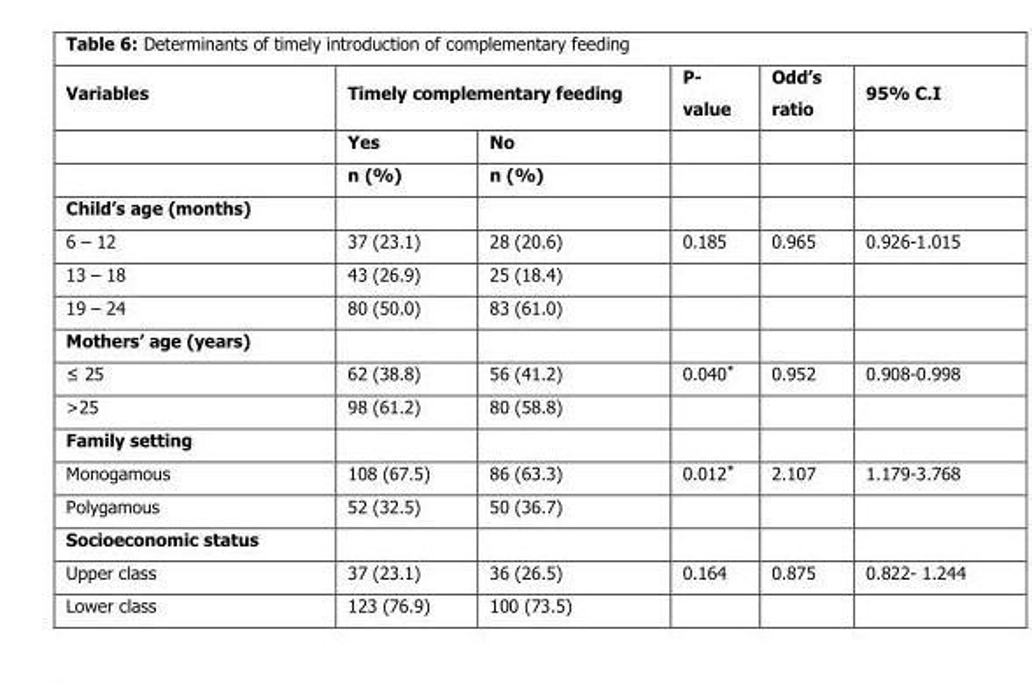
<table><thead><tr><td rowspan="3">Variables</td><td colspan="2">Timely complementary feeding</td><td rowspan="3">P- value</td><td rowspan="3">Odd’s ratio</td><td rowspan="3">95% C.I</td></tr><tr><td rowspan="2">Yes n (%)</td><td rowspan="2">No n (%)</td></tr><tr></tr></thead><tbody><tr><td colspan="6">Child’s age (months)</td></tr><tr><td>6 – 12</td><td>37 (23.1)</td><td>28 (20.6)</td><td>0.185</td><td>0.965</td><td>0.926-1.015</td></tr><tr><td>13 – 18</td><td>43 (26.9)</td><td>25 (18.4)</td><td></td><td></td><td></td></tr><tr><td>19 – 24</td><td>80 (50.0)</td><td>83 (61.0)</td><td></td><td></td><td></td></tr><tr><td colspan="6">Mothers’ age (years)</td></tr><tr><td>≤ 25</td><td>62 (38.8)</td><td>56 (41.2)</td><td>0.040*</td><td>0.952</td><td>0.908-0.998</td></tr><tr><td>&gt;25</td><td>98 (61.2)</td><td>80 (58.8)</td><td></td><td></td><td></td></tr><tr><td colspan="6">Family setting</td></tr><tr><td>Monogamous</td><td>108 (67.5)</td><td>86 (63.3)</td><td>0.012*</td><td>2.107</td><td>1.179-3.768</td></tr><tr><td>Polygamous</td><td>52 (32.5)</td><td>50 (36.7)</td><td></td><td></td><td></td></tr><tr><td colspan="6">Socioeconomic status</td></tr><tr><td>Upper class</td><td>37 (23.1)</td><td>36 (26.5)</td><td>0.164</td><td>0.875</td><td>0.822- 1.244</td></tr><tr><td>Lower class</td><td>123 (76.9)</td><td>100 (73.5)</td><td></td><td></td><td></td></tr></tbody></table>